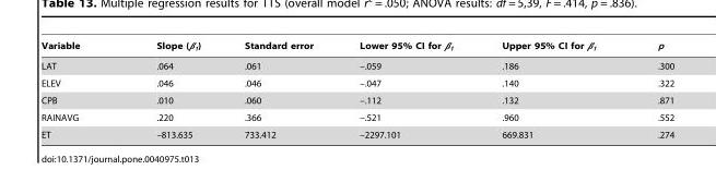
<table><thead><tr><td>Variable</td><td>Slope (β<sub>1</sub>)</td><td>Standard error</td><td>Lower 95% CI for β<sub>1</sub></td><td>Upper 95% CI for β<sub>1</sub></td><td>p</td></tr></thead><tbody><tr><td>LAT</td><td>.064</td><td>.061</td><td>–.059</td><td>.186</td><td>.300</td></tr><tr><td>ELEV</td><td>.046</td><td>.046</td><td>–.047</td><td>.140</td><td>.322</td></tr><tr><td>CPB</td><td>.010</td><td>.060</td><td>–.112</td><td>.132</td><td>.871</td></tr><tr><td>RAINAVG</td><td>.220</td><td>.366</td><td>–.521</td><td>.960</td><td>.552</td></tr><tr><td>ET</td><td>–813.635</td><td>733.412</td><td>–2297.101</td><td>669.831</td><td>.274</td></tr></tbody></table>